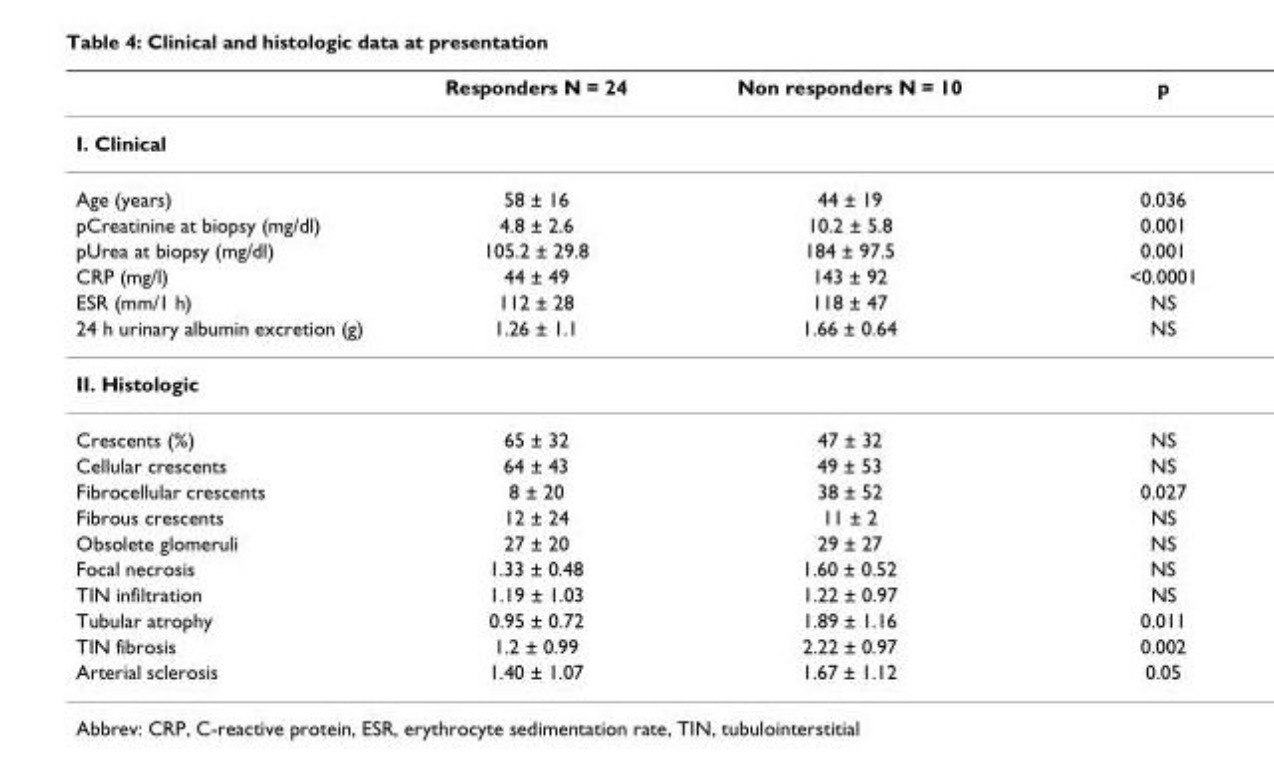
<table><thead><tr><td></td><td>Responders N = 24</td><td>Non responders N = 10</td><td>p</td></tr></thead><tbody><tr><td colspan="4">I. Clinical</td></tr><tr><td>Age (years)</td><td>58 ± 16</td><td>44 ± 19</td><td>0.036</td></tr><tr><td>pCreatinine at biopsy (mg/dl)</td><td>4.8 ± 2.6</td><td>10.2 ± 5.8</td><td>0.001</td></tr><tr><td>pUrea at biopsy (mg/dl)</td><td>105.2 ± 29.8</td><td>184 ± 97.5</td><td>0.001</td></tr><tr><td>CRP (mg/l)</td><td>44 ± 49</td><td>143 ± 92</td><td>&lt;0.0001</td></tr><tr><td>ESR (mm/1 h)</td><td>112 ± 28</td><td>118 ± 47</td><td>NS</td></tr><tr><td>24 h urinary albumin excretion (g)</td><td>1.26 ± 1.1</td><td>1.66 ± 0.64</td><td>NS</td></tr><tr><td colspan="4">II. Histologic</td></tr><tr><td>Crescents (%)</td><td>65 ± 32</td><td>47 ± 32</td><td>NS</td></tr><tr><td>Cellular crescents</td><td>64 ± 43</td><td>49 ± 53</td><td>NS</td></tr><tr><td>Fibrocellular crescents</td><td>8 ± 20</td><td>38 ± 52</td><td>0.027</td></tr><tr><td>Fibrous crescents</td><td>12 ± 24</td><td>11 ± 2</td><td>NS</td></tr><tr><td>Obsolete glomeruli</td><td>27 ± 20</td><td>29 ± 27</td><td>NS</td></tr><tr><td>Focal necrosis</td><td>1.33 ± 0.48</td><td>1.60 ± 0.52</td><td>NS</td></tr><tr><td>TIN infiltration</td><td>1.19 ± 1.03</td><td>1.22 ± 0.97</td><td>NS</td></tr><tr><td>Tubular atrophy</td><td>0.95 ± 0.72</td><td>1.89 ± 1.16</td><td>0.011</td></tr><tr><td>TIN fibrosis</td><td>1.2 ± 0.99</td><td>2.22 ± 0.97</td><td>0.002</td></tr><tr><td>Arterial sclerosis</td><td>1.40 ± 1.07</td><td>1.67 ± 1.12</td><td>0.05</td></tr></tbody></table>